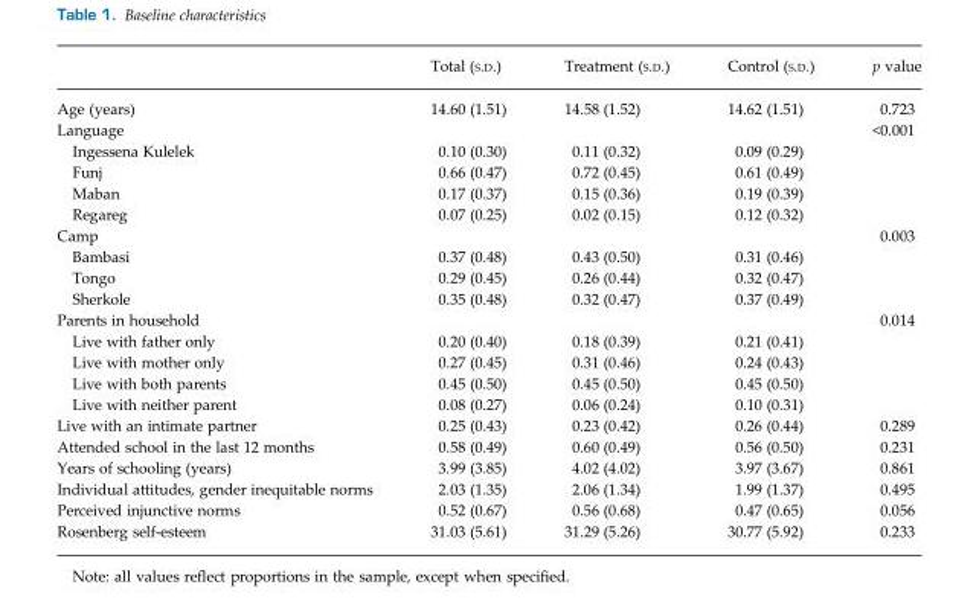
<table><thead><tr><td></td><td>Total (S.D.)</td><td>Treatment (S.D.)</td><td>Control (S.D.)</td><td>p value</td></tr></thead><tbody><tr><td>Age (years)</td><td>14.60 (1.51)</td><td>14.58 (1.52)</td><td>14.62 (1.51)</td><td>0.723</td></tr><tr><td>Language</td><td></td><td></td><td></td><td>&lt;0.001</td></tr><tr><td>Ingessena Kulelek</td><td>0.10 (0.30)</td><td>0.11 (0.32)</td><td>0.09 (0.29)</td><td></td></tr><tr><td>Funj</td><td>0.66 (0.47)</td><td>0.72 (0.45)</td><td>0.61 (0.49)</td><td></td></tr><tr><td>Maban</td><td>0.17 (0.37)</td><td>0.15 (0.36)</td><td>0.19 (0.39)</td><td></td></tr><tr><td>Regareg</td><td>0.07 (0.25)</td><td>0.02 (0.15)</td><td>0.12 (0.32)</td><td></td></tr><tr><td>Camp</td><td></td><td></td><td></td><td>0.003</td></tr><tr><td>Bambasi</td><td>0.37 (0.48)</td><td>0.43 (0.50)</td><td>0.31 (0.46)</td><td></td></tr><tr><td>Tongo</td><td>0.29 (0.45)</td><td>0.26 (0.44)</td><td>0.32 (0.47)</td><td></td></tr><tr><td>Sherkole</td><td>0.35 (0.48)</td><td>0.32 (0.47)</td><td>0.37 (0.49)</td><td></td></tr><tr><td>Parents in household</td><td></td><td></td><td></td><td>0.014</td></tr><tr><td>Live with father only</td><td>0.20 (0.40)</td><td>0.18 (0.39)</td><td>0.21 (0.41)</td><td></td></tr><tr><td>Live with mother only</td><td>0.27 (0.45)</td><td>0.31 (0.46)</td><td>0.24 (0.43)</td><td></td></tr><tr><td>Live with both parents</td><td>0.45 (0.50)</td><td>0.45 (0.50)</td><td>0.45 (0.50)</td><td></td></tr><tr><td>Live with neither parent</td><td>0.08 (0.27)</td><td>0.06 (0.24)</td><td>0.10 (0.31)</td><td></td></tr><tr><td>Live with an intimate partner</td><td>0.25 (0.43)</td><td>0.23 (0.42)</td><td>0.26 (0.44)</td><td>0.289</td></tr><tr><td>Attended school in the last 12 months</td><td>0.58 (0.49)</td><td>0.60 (0.49)</td><td>0.56 (0.50)</td><td>0.231</td></tr><tr><td>Years of schooling (years)</td><td>3.99 (3.85)</td><td>4.02 (4.02)</td><td>3.97 (3.67)</td><td>0.861</td></tr><tr><td>Individual attitudes, gender inequitable norms</td><td>2.03 (1.35)</td><td>2.06 (1.34)</td><td>1.99 (1.37)</td><td>0.495</td></tr><tr><td>Perceived injunctive norms</td><td>0.52 (0.67)</td><td>0.56 (0.68)</td><td>0.47 (0.65)</td><td>0.056</td></tr><tr><td>Rosenberg self-esteem</td><td>31.03 (5.61)</td><td>31.29 (5.26)</td><td>30.77 (5.92)</td><td>0.233</td></tr></tbody></table>